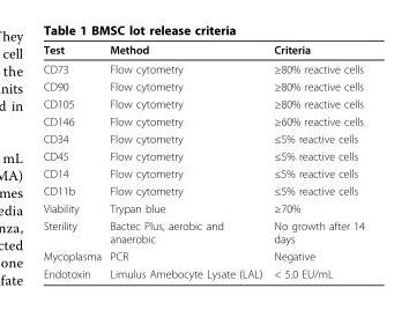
<table><thead><tr><td>Test</td><td>Method</td><td>Criteria</td></tr></thead><tbody><tr><td>CD73</td><td>Flow cytometry</td><td>≥80% reactive cells</td></tr><tr><td>CD90</td><td>Flow cytometry</td><td>≥80% reactive cells</td></tr><tr><td>CD105</td><td>Flow cytometry</td><td>≥80% reactive cells</td></tr><tr><td>CD146</td><td>Flow cytometry</td><td>≥60% reactive cells</td></tr><tr><td>CD34</td><td>Flow cytometry</td><td>≤5% reactive cells</td></tr><tr><td>CD45</td><td>Flow cytometry</td><td>≤5% reactive cells</td></tr><tr><td>CD14</td><td>Flow cytometry</td><td>≤5% reactive cells</td></tr><tr><td>CD11b</td><td>Flow cytometry</td><td>≤5% reactive cells</td></tr><tr><td>Viability</td><td>Trypan blue</td><td>≥70%</td></tr><tr><td>Sterility</td><td>Bactec Plus, aerobic and anaerobic</td><td>No growth after 14 days</td></tr><tr><td>Mycoplasma</td><td>PCR</td><td>Negative</td></tr><tr><td>Endotoxin</td><td>Limulus Amebocyte Lysate (LAL)</td><td>&lt; 5.0 EU/mL</td></tr></tbody></table>